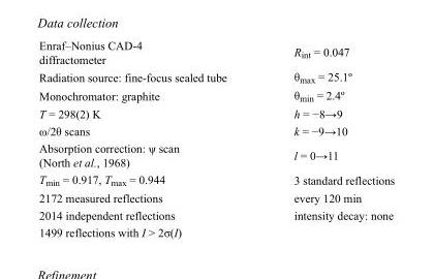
<table><tbody><tr><td>Enraf–Nonius CAD-4 diffractometer</td><td>R<sub>int</sub> = 0.047</td></tr><tr><td>Radiation source: fine-focus sealed tube</td><td>θ<sub>max</sub> = 25.1º</td></tr><tr><td>Monochromator: graphite</td><td>θ<sub>min</sub> = 2.4º</td></tr><tr><td>T = 298(2) K</td><td>h = −8→9</td></tr><tr><td>ω/2θ scans</td><td>k = −9→10</td></tr><tr><td>Absorption correction: ψ scan (North et al., 1968)</td><td>l = 0→11</td></tr><tr><td>T<sub>min</sub> = 0.917, T<sub>max</sub> = 0.944</td><td>3 standard reflections</td></tr><tr><td>2172 measured reflections</td><td>every 120 min</td></tr><tr><td>2014 independent reflections</td><td>intensity decay: none</td></tr><tr><td>1499 reflections with I &gt; 2σ(I)</td><td></td></tr></tbody></table>